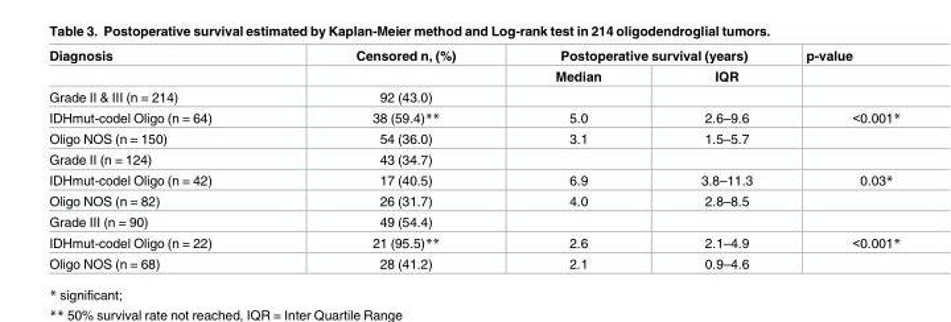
<table><thead><tr><td rowspan="2">Diagnosis</td><td rowspan="2">Censored n, (%)</td><td colspan="2">Postoperative survival (years)</td><td rowspan="2">p-value</td></tr><tr><td>Median</td><td>IQR</td></tr></thead><tbody><tr><td>Grade II &amp; III (n = 214)</td><td>92 (43.0)</td><td></td><td></td><td></td></tr><tr><td>IDHmut-codel Oligo (n = 64)</td><td>38 (59.4)**</td><td>5.0</td><td>2.6–9.6</td><td>&lt;0.001*</td></tr><tr><td>Oligo NOS (n = 150)</td><td>54 (36.0)</td><td>3.1</td><td>1.5–5.7</td><td></td></tr><tr><td>Grade II (n = 124)</td><td>43 (34.7)</td><td></td><td></td><td></td></tr><tr><td>IDHmut-codel Oligo (n = 42)</td><td>17 (40.5)</td><td>6.9</td><td>3.8–11.3</td><td>0.03*</td></tr><tr><td>Oligo NOS (n = 82)</td><td>26 (31.7)</td><td>4.0</td><td>2.8–8.5</td><td></td></tr><tr><td>Grade III (n = 90)</td><td>49 (54.4)</td><td></td><td></td><td></td></tr><tr><td>IDHmut-codel Oligo (n = 22)</td><td>21 (95.5)**</td><td>2.6</td><td>2.1–4.9</td><td>&lt;0.001*</td></tr><tr><td>Oligo NOS (n = 68)</td><td>28 (41.2)</td><td>2.1</td><td>0.9–4.6</td><td></td></tr></tbody></table>